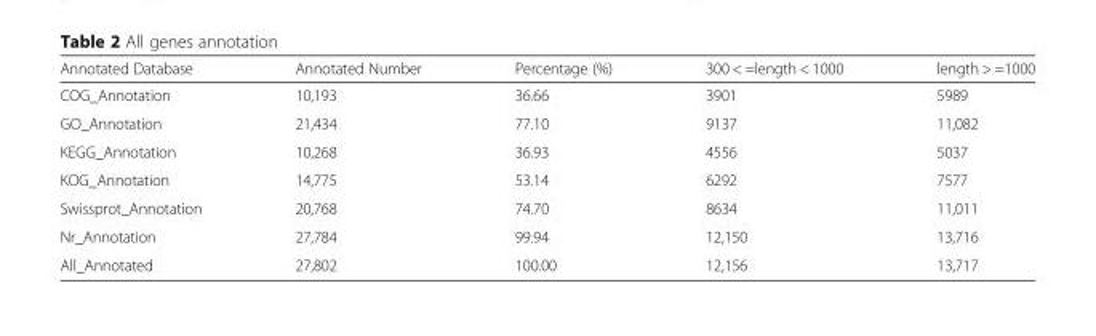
<table><thead><tr><td>Annotated Database</td><td>Annotated Number</td><td>Percentage (%)</td><td>300 &lt; =length &lt; 1000</td><td>length &gt; =1000</td></tr></thead><tbody><tr><td>COG_Annotation</td><td>10,193</td><td>36.66</td><td>3901</td><td>5989</td></tr><tr><td>GO_Annotation</td><td>21,434</td><td>77.10</td><td>9137</td><td>11,082</td></tr><tr><td>KEGG_Annotation</td><td>10,268</td><td>36.93</td><td>4556</td><td>5037</td></tr><tr><td>KOG_Annotation</td><td>14,775</td><td>53.14</td><td>6292</td><td>7577</td></tr><tr><td>Swissprot_Annotation</td><td>20,768</td><td>74.70</td><td>8634</td><td>11,011</td></tr><tr><td>Nr_Annotation</td><td>27,784</td><td>99.94</td><td>12,150</td><td>13,716</td></tr><tr><td>All_Annotated</td><td>27,802</td><td>100.00</td><td>12,156</td><td>13,717</td></tr></tbody></table>